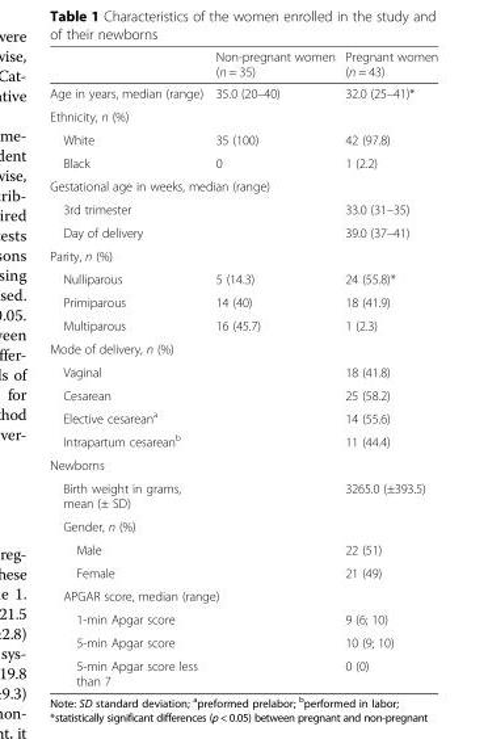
<table><thead><tr><td></td><td>Non-pregnant women (n = 35)</td><td>Pregnant women (n = 43)</td></tr></thead><tbody><tr><td>Age in years, median (range)</td><td>35.0 (20–40)</td><td>32.0 (25–41)*</td></tr><tr><td colspan="3">Ethnicity, n (%)</td></tr><tr><td>White</td><td>35 (100)</td><td>42 (97.8)</td></tr><tr><td>Black</td><td>0</td><td>1 (2.2)</td></tr><tr><td colspan="3">Gestational age in weeks, median (range)</td></tr><tr><td>3rd trimester</td><td></td><td>33.0 (31–35)</td></tr><tr><td>Day of delivery</td><td></td><td>39.0 (37–41)</td></tr><tr><td colspan="3">Parity, n (%)</td></tr><tr><td>Nulliparous</td><td>5 (14.3)</td><td>24 (55.8)*</td></tr><tr><td>Primiparous</td><td>14 (40)</td><td>18 (41.9)</td></tr><tr><td>Multiparous</td><td>16 (45.7)</td><td>1 (2.3)</td></tr><tr><td colspan="3">Mode of delivery, n (%)</td></tr><tr><td>Vaginal</td><td></td><td>18 (41.8)</td></tr><tr><td>Cesarean</td><td></td><td>25 (58.2)</td></tr><tr><td>Elective cesarean<sup>a</sup></td><td></td><td>14 (55.6)</td></tr><tr><td>Intrapartum cesarean<sup>b</sup></td><td></td><td>11 (44.4)</td></tr><tr><td colspan="3">Newborns</td></tr><tr><td>Birth weight in grams, mean (± SD)</td><td></td><td>3265.0 (±393.5)</td></tr><tr><td colspan="3">Gender, n (%)</td></tr><tr><td>Male</td><td></td><td>22 (51)</td></tr><tr><td>Female</td><td></td><td>21 (49)</td></tr><tr><td colspan="3">APGAR score, median (range)</td></tr><tr><td>1-min Apgar score</td><td></td><td>9 (6; 10)</td></tr><tr><td>5-min Apgar score</td><td></td><td>10 (9; 10)</td></tr><tr><td>5-min Apgar score less than 7</td><td></td><td>0 (0)</td></tr></tbody></table>